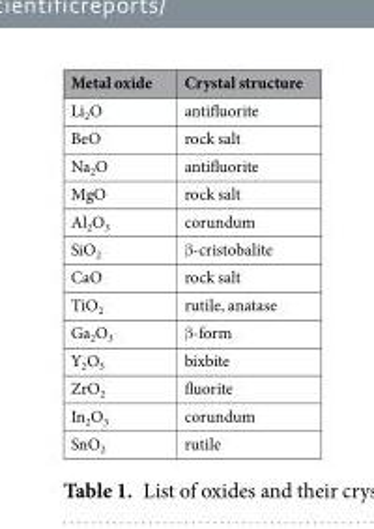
<table><thead><tr><td>Metal oxide</td><td>Crystal structure</td></tr></thead><tbody><tr><td>Li<sub>2</sub>O</td><td>antifluorite</td></tr><tr><td>BeO</td><td>rock salt</td></tr><tr><td>Na<sub>2</sub>O</td><td>antifluorite</td></tr><tr><td>MgO</td><td>rock salt</td></tr><tr><td>Al<sub>2</sub>O<sub>3</sub></td><td>corundum</td></tr><tr><td>SiO<sub>2</sub></td><td>β-cristobalite</td></tr><tr><td>CaO</td><td>rock salt</td></tr><tr><td>TiO<sub>2</sub></td><td>rutile, anatase</td></tr><tr><td>Ga<sub>2</sub>O<sub>3</sub></td><td>β-form</td></tr><tr><td>Y<sub>2</sub>O<sub>3</sub></td><td>bixbite</td></tr><tr><td>ZrO<sub>2</sub></td><td>fluorite</td></tr><tr><td>In<sub>2</sub>O<sub>3</sub></td><td>corundum</td></tr><tr><td>SnO<sub>2</sub></td><td>rutile</td></tr></tbody></table>